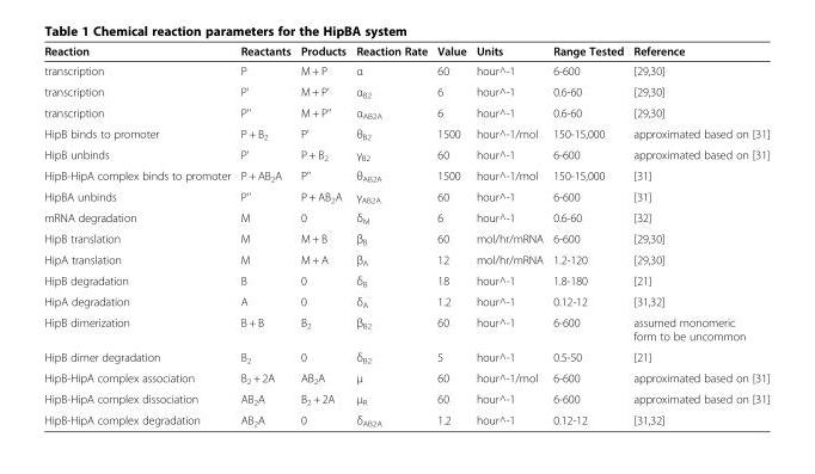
<table><thead><tr><td>Reaction</td><td>Reactants</td><td>Products</td><td>Reaction Rate</td><td>Value</td><td>Units</td><td>Range Tested</td><td>Reference</td></tr></thead><tbody><tr><td>transcription</td><td>P</td><td>M + P</td><td>α</td><td>60</td><td>hour^-1</td><td>6-600</td><td>[29,30]</td></tr><tr><td>transcription</td><td>P&#x27;</td><td>M + P&#x27;</td><td>α<sub>B2</sub></td><td>6</td><td>hour^-1</td><td>0.6-60</td><td>[29,30]</td></tr><tr><td>transcription</td><td>P&#x27;&#x27;</td><td>M + P&#x27;&#x27;</td><td>α<sub>AB2A</sub></td><td>6</td><td>hour^-1</td><td>0.6-60</td><td>[29,30]</td></tr><tr><td>HipB binds to promoter</td><td>P + B<sub>2</sub></td><td>P&#x27;</td><td>θ<sub>B2</sub></td><td>1500</td><td>hour^-1/mol</td><td>150-15,000</td><td>approximated based on [31]</td></tr><tr><td>HipB unbinds</td><td>P&#x27;</td><td>P + B<sub>2</sub></td><td>γ<sub>B2</sub></td><td>60</td><td>hour^-1</td><td>6-600</td><td>approximated based on [31]</td></tr><tr><td>HipB-HipA complex binds to promoter</td><td>P + AB<sub>2</sub>A</td><td>P&#x27;&#x27;</td><td>θ<sub>AB2A</sub></td><td>1500</td><td>hour^-1/mol</td><td>150-15,000</td><td>[31]</td></tr><tr><td>HipBA unbinds</td><td>P&#x27;&#x27;</td><td>P + AB<sub>2</sub>A</td><td>γ<sub>AB2A</sub></td><td>60</td><td>hour^-1</td><td>6-600</td><td>[31]</td></tr><tr><td>mRNA degradation</td><td>M</td><td>0</td><td>δ<sub>M</sub></td><td>6</td><td>hour^-1</td><td>0.6-60</td><td>[32]</td></tr><tr><td>HipB translation</td><td>M</td><td>M + B</td><td>β<sub>B</sub></td><td>60</td><td>mol/hr/mRNA</td><td>6-600</td><td>[29,30]</td></tr><tr><td>HipA translation</td><td>M</td><td>M + A</td><td>β<sub>A</sub></td><td>12</td><td>mol/hr/mRNA</td><td>1.2-120</td><td>[29,30]</td></tr><tr><td>HipB degradation</td><td>B</td><td>0</td><td>δ<sub>B</sub></td><td>18</td><td>hour^-1</td><td>1.8-180</td><td>[21]</td></tr><tr><td>HipA degradation</td><td>A</td><td>0</td><td>δ<sub>A</sub></td><td>1.2</td><td>hour^-1</td><td>0.12-12</td><td>[31,32]</td></tr><tr><td>HipB dimerization</td><td>B + B</td><td>B<sub>2</sub></td><td>β<sub>B2</sub></td><td>60</td><td>hour^-1</td><td>6-600</td><td>assumed monomeric form to be uncommon</td></tr><tr><td>HipB dimer degradation</td><td>B<sub>2</sub></td><td>0</td><td>δ<sub>B2</sub></td><td>5</td><td>hour^-1</td><td>0.5-50</td><td>[21]</td></tr><tr><td>HipB-HipA complex association</td><td>B<sub>2</sub> + 2A</td><td>AB<sub>2</sub>A</td><td>μ</td><td>60</td><td>hour^-1/mol</td><td>6-600</td><td>approximated based on [31]</td></tr><tr><td>HipB-HipA complex dissociation</td><td>AB<sub>2</sub>A</td><td>B<sub>2</sub> + 2A</td><td>μ<sub>R</sub></td><td>60</td><td>hour^-1</td><td>6-600</td><td>approximated based on [31]</td></tr><tr><td>HipB-HipA complex degradation</td><td>AB<sub>2</sub>A</td><td>0</td><td>δ<sub>AB2A</sub></td><td>1.2</td><td>hour^-1</td><td>0.12-12</td><td>[31,32]</td></tr></tbody></table>